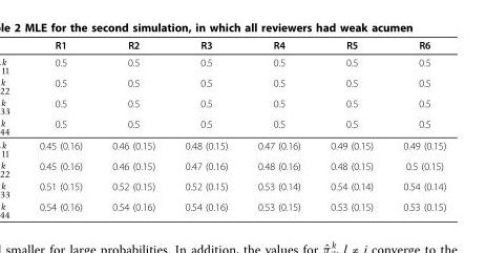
<table><thead><tr><td>R1</td><td>R2</td><td>R3</td><td>R4</td><td>R5</td><td>R6</td></tr></thead><tbody><tr><td>0.5</td><td>0.5</td><td>0.5</td><td>0.5</td><td>0.5</td><td>0.5</td></tr><tr><td>0.5</td><td>0.5</td><td>0.5</td><td>0.5</td><td>0.5</td><td>0.5</td></tr><tr><td>0.5</td><td>0.5</td><td>0.5</td><td>0.5</td><td>0.5</td><td>0.5</td></tr><tr><td>0.5</td><td>0.5</td><td>0.5</td><td>0.5</td><td>0.5</td><td>0.5</td></tr><tr><td>0.45 (0.16)</td><td>0.46 (0.15)</td><td>0.48 (0.15)</td><td>0.47 (0.16)</td><td>0.49 (0.15)</td><td>0.49 (0.15)</td></tr><tr><td>0.45 (0.16)</td><td>0.46 (0.15)</td><td>0.47 (0.16)</td><td>0.48 (0.16)</td><td>0.48 (0.15)</td><td>0.5 (0.15)</td></tr><tr><td>0.51 (0.15)</td><td>0.52 (0.15)</td><td>0.52 (0.15)</td><td>0.53 (0.14)</td><td>0.54 (0.14)</td><td>0.54 (0.14)</td></tr><tr><td>0.54 (0.16)</td><td>0.54 (0.16)</td><td>0.54 (0.16)</td><td>0.53 (0.15)</td><td>0.53 (0.15)</td><td>0.53 (0.15)</td></tr></tbody></table>